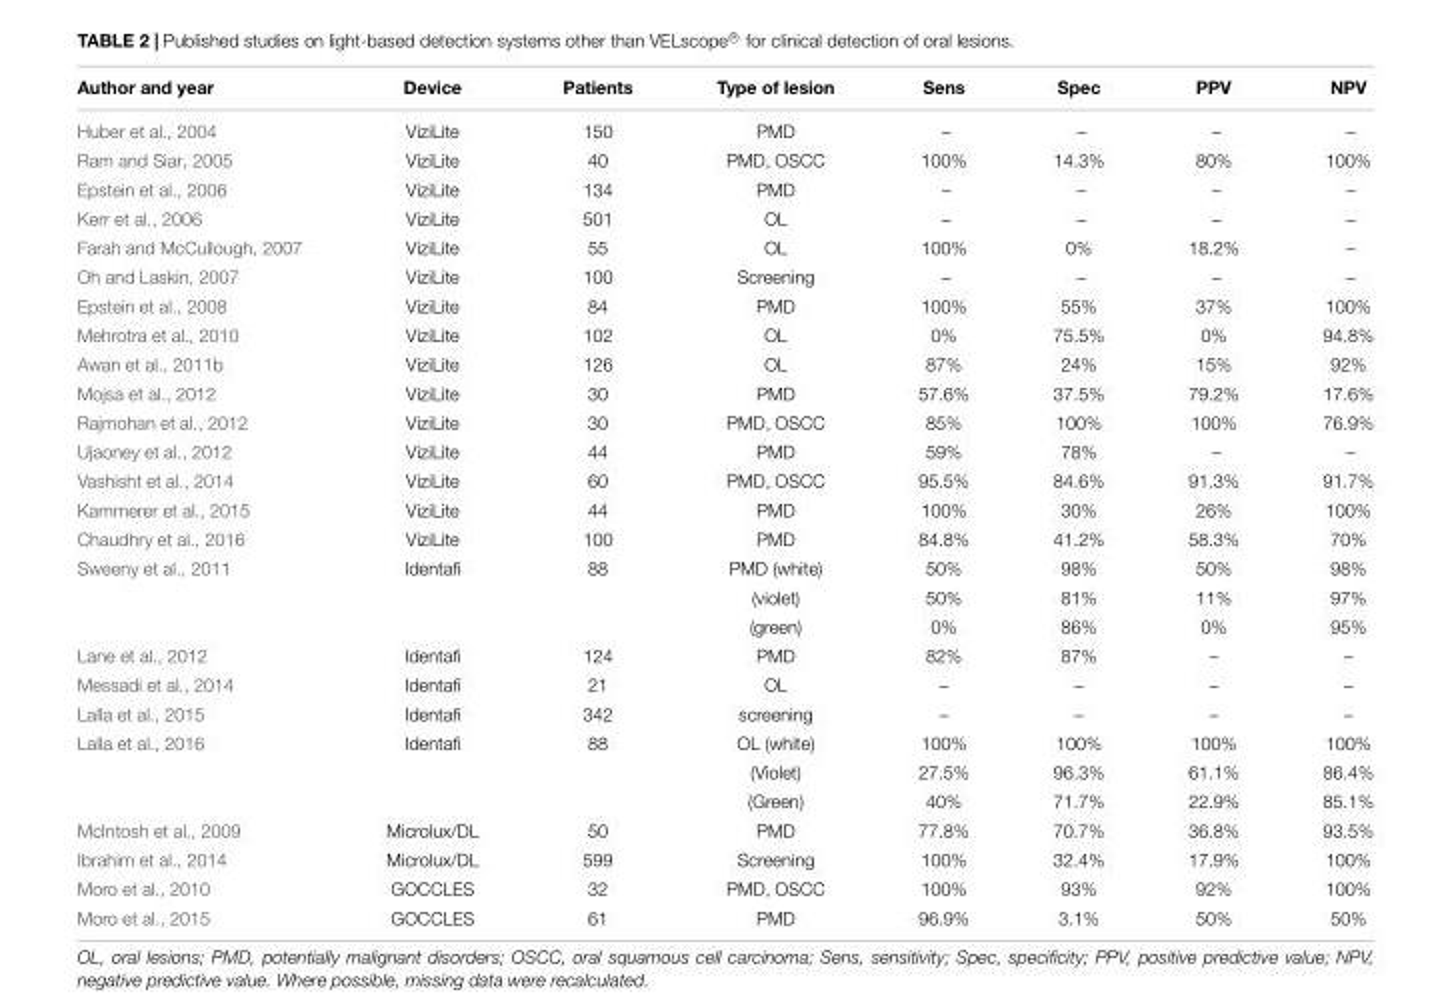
<table><thead><tr><td>Author and year</td><td>Device</td><td>Patients</td><td>Type of lesion</td><td>Sens</td><td>Spec</td><td>PPV</td><td>NPV</td></tr></thead><tbody><tr><td>Huber et al., 2004</td><td>ViziLite</td><td>150</td><td>PMD</td><td>–</td><td>–</td><td>–</td><td>–</td></tr><tr><td>Ram and Siar, 2005</td><td>ViziLite</td><td>40</td><td>PMD, OSCC</td><td>100%</td><td>14.3%</td><td>80%</td><td>100%</td></tr><tr><td>Epstein et al., 2006</td><td>ViziLite</td><td>134</td><td>PMD</td><td>–</td><td>–</td><td>–</td><td>–</td></tr><tr><td>Kerr et al., 2006</td><td>ViziLite</td><td>501</td><td>OL</td><td>–</td><td>–</td><td>–</td><td>–</td></tr><tr><td>Farah and McCullough, 2007</td><td>ViziLite</td><td>55</td><td>OL</td><td>100%</td><td>0%</td><td>18.2%</td><td>–</td></tr><tr><td>Oh and Laskin, 2007</td><td>ViziLite</td><td>100</td><td>Screening</td><td>–</td><td>–</td><td>–</td><td>–</td></tr><tr><td>Epstein et al., 2008</td><td>ViziLite</td><td>84</td><td>PMD</td><td>100%</td><td>55%</td><td>37%</td><td>100%</td></tr><tr><td>Mehrotra et al., 2010</td><td>ViziLite</td><td>102</td><td>OL</td><td>0%</td><td>75.5%</td><td>0%</td><td>94.8%</td></tr><tr><td>Awan et al., 2011b</td><td>ViziLite</td><td>126</td><td>OL</td><td>87%</td><td>24%</td><td>15%</td><td>92%</td></tr><tr><td>Mojsa et al., 2012</td><td>ViziLite</td><td>30</td><td>PMD</td><td>57.6%</td><td>37.5%</td><td>79.2%</td><td>17.6%</td></tr><tr><td>Rajmohan et al., 2012</td><td>ViziLite</td><td>30</td><td>PMD, OSCC</td><td>85%</td><td>100%</td><td>100%</td><td>76.9%</td></tr><tr><td>Ujaoney et al., 2012</td><td>ViziLite</td><td>44</td><td>PMD</td><td>59%</td><td>78%</td><td>–</td><td>–</td></tr><tr><td>Vashisht et al., 2014</td><td>ViziLite</td><td>60</td><td>PMD, OSCC</td><td>95.5%</td><td>84.6%</td><td>91.3%</td><td>91.7%</td></tr><tr><td>Kammerer et al., 2015</td><td>ViziLite</td><td>44</td><td>PMD</td><td>100%</td><td>30%</td><td>26%</td><td>100%</td></tr><tr><td>Chaudhry et al., 2016</td><td>ViziLite</td><td>100</td><td>PMD</td><td>84.8%</td><td>41.2%</td><td>58.3%</td><td>70%</td></tr><tr><td rowspan="3">Sweeny et al., 2011</td><td>Identafi</td><td>88</td><td>PMD (white)</td><td>50%</td><td>98%</td><td>50%</td><td>98%</td></tr><tr><td></td><td></td><td>(violet)</td><td>50%</td><td>81%</td><td>11%</td><td>97%</td></tr><tr><td></td><td></td><td>(green)</td><td>0%</td><td>86%</td><td>0%</td><td>95%</td></tr><tr><td>Lane et al., 2012</td><td>Identafi</td><td>124</td><td>PMD</td><td>82%</td><td>87%</td><td>–</td><td>–</td></tr><tr><td>Messadi et al., 2014</td><td>Identafi</td><td>21</td><td>OL</td><td>–</td><td>–</td><td>–</td><td>–</td></tr><tr><td>Lalla et al., 2015</td><td>Identafi</td><td>342</td><td>screening</td><td>–</td><td>–</td><td>–</td><td>–</td></tr><tr><td rowspan="3">Lalla et al., 2016</td><td>Identafi</td><td>88</td><td>OL (white)</td><td>100%</td><td>100%</td><td>100%</td><td>100%</td></tr><tr><td></td><td></td><td>(Violet)</td><td>27.5%</td><td>96.3%</td><td>61.1%</td><td>86.4%</td></tr><tr><td></td><td></td><td>(Green)</td><td>40%</td><td>71.7%</td><td>22.9%</td><td>85.1%</td></tr><tr><td>McIntosh et al., 2009</td><td>Microlux/DL</td><td>50</td><td>PMD</td><td>77.8%</td><td>70.7%</td><td>36.8%</td><td>93.5%</td></tr><tr><td>Ibrahim et al., 2014</td><td>Microlux/DL</td><td>599</td><td>Screening</td><td>100%</td><td>32.4%</td><td>17.9%</td><td>100%</td></tr><tr><td>Moro et al., 2010</td><td>GOCCLES</td><td>32</td><td>PMD, OSCC</td><td>100%</td><td>93%</td><td>92%</td><td>100%</td></tr><tr><td>Moro et al., 2015</td><td>GOCCLES</td><td>61</td><td>PMD</td><td>96.9%</td><td>3.1%</td><td>50%</td><td>50%</td></tr></tbody></table>